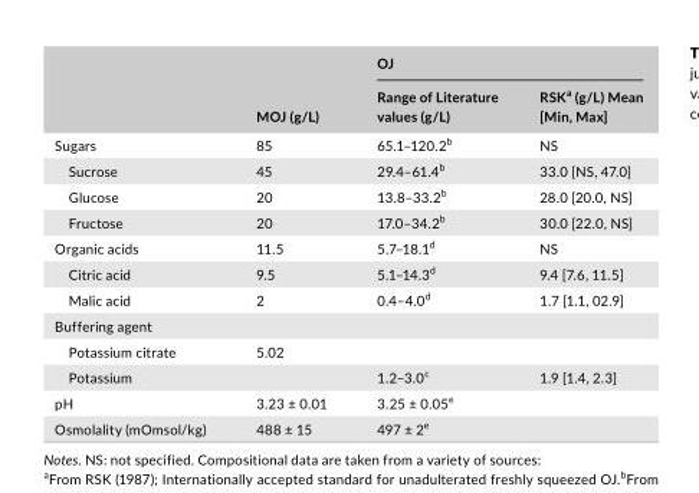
<table><thead><tr><td rowspan="2"></td><td rowspan="2">MOJ (g/L)</td><td colspan="2">OJ</td></tr><tr><td>Range of Literature values (g/L)</td><td>RSK<sup>a</sup> (g/L) Mean [Min, Max]</td></tr></thead><tbody><tr><td>Sugars</td><td>85</td><td>65.1–120.2<sup>b</sup></td><td>NS</td></tr><tr><td>Sucrose</td><td>45</td><td>29.4–61.4<sup>b</sup></td><td>33.0 [NS, 47.0]</td></tr><tr><td>Glucose</td><td>20</td><td>13.8–33.2<sup>b</sup></td><td>28.0 [20.0, NS]</td></tr><tr><td>Fructose</td><td>20</td><td>17.0–34.2<sup>b</sup></td><td>30.0 [22.0, NS]</td></tr><tr><td>Organic acids</td><td>11.5</td><td>5.7–18.1<sup>d</sup></td><td>NS</td></tr><tr><td>Citric acid</td><td>9.5</td><td>5.1–14.3<sup>d</sup></td><td>9.4 [7.6, 11.5]</td></tr><tr><td>Malic acid</td><td>2</td><td>0.4–4.0<sup>d</sup></td><td>1.7 [1.1, 02.9]</td></tr><tr><td colspan="4">Buffering agent</td></tr><tr><td>Potassium citrate</td><td>5.02</td><td></td><td></td></tr><tr><td>Potassium</td><td></td><td>1.2–3.0<sup>c</sup></td><td>1.9 [1.4, 2.3]</td></tr><tr><td>pH</td><td>3.23 ± 0.01</td><td>3.25 ± 0.05<sup>e</sup></td><td></td></tr><tr><td>Osmolality (mOmsol/kg)</td><td>488 ± 15</td><td>497 ± 2<sup>e</sup></td><td></td></tr></tbody></table>